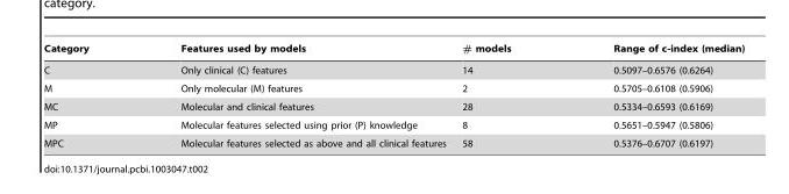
<table><thead><tr><td>Category</td><td>Features used by models</td><td># models</td><td>Range of c-index (median)</td></tr></thead><tbody><tr><td>C</td><td>Only clinical (C) features</td><td>14</td><td>0.5097–0.6576 (0.6264)</td></tr><tr><td>M</td><td>Only molecular (M) features</td><td>2</td><td>0.5705–0.6108 (0.5906)</td></tr><tr><td>MC</td><td>Molecular and clinical features</td><td>28</td><td>0.5334–0.6593 (0.6169)</td></tr><tr><td>MP</td><td>Molecular features selected using prior (P) knowledge</td><td>8</td><td>0.5651–0.5947 (0.5806)</td></tr><tr><td>MPC</td><td>Molecular features selected as above and all clinical features</td><td>58</td><td>0.5376–0.6707 (0.6197)</td></tr></tbody></table>